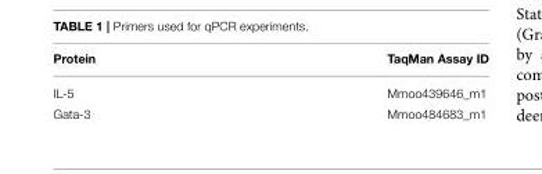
<table><thead><tr><td>Protein</td><td>TaqMan Assay ID</td></tr></thead><tbody><tr><td>IL-5</td><td>Mmoo439646_m1</td></tr><tr><td>Gata-3</td><td>Mmoo484683_m1</td></tr></tbody></table>